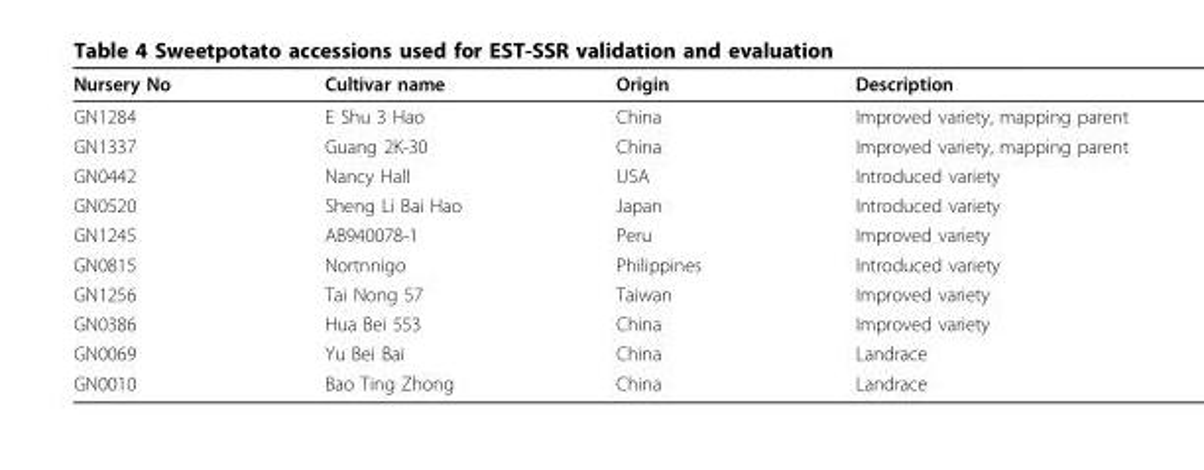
<table><thead><tr><td>Nursery No</td><td>Cultivar name</td><td>Origin</td><td>Description</td></tr></thead><tbody><tr><td>GN1284</td><td>E Shu 3 Hao</td><td>China</td><td>Improved variety, mapping parent</td></tr><tr><td>GN1337</td><td>Guang 2K-30</td><td>China</td><td>Improved variety, mapping parent</td></tr><tr><td>GN0442</td><td>Nancy Hall</td><td>USA</td><td>Introduced variety</td></tr><tr><td>GN0520</td><td>Sheng Li Bai Hao</td><td>Japan</td><td>Introduced variety</td></tr><tr><td>GN1245</td><td>AB940078-1</td><td>Peru</td><td>Improved variety</td></tr><tr><td>GN0815</td><td>Nortnnigo</td><td>Philippines</td><td>Introduced variety</td></tr><tr><td>GN1256</td><td>Tai Nong 57</td><td>Taiwan</td><td>Improved variety</td></tr><tr><td>GN0386</td><td>Hua Bei 553</td><td>China</td><td>Improved variety</td></tr><tr><td>GN0069</td><td>Yu Bei Bai</td><td>China</td><td>Landrace</td></tr><tr><td>GN0010</td><td>Bao Ting Zhong</td><td>China</td><td>Landrace</td></tr></tbody></table>